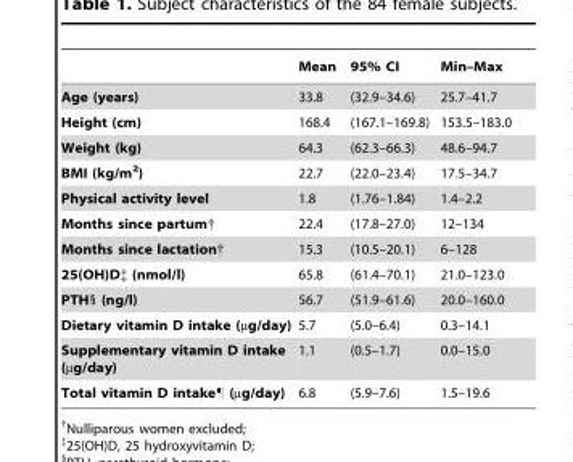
<table><thead><tr><td></td><td>Mean</td><td>95% CI</td><td>Min–Max</td></tr></thead><tbody><tr><td>Age (years)</td><td>33.8</td><td>(32.9–34.6)</td><td>25.7–41.7</td></tr><tr><td>Height (cm)</td><td>168.4</td><td>(167.1–169.8)</td><td>153.5–183.0</td></tr><tr><td>Weight (kg)</td><td>64.3</td><td>(62.3–66.3)</td><td>48.6–94.7</td></tr><tr><td>BMI (kg/m<sup>2</sup>)</td><td>22.7</td><td>(22.0–23.4)</td><td>17.5–34.7</td></tr><tr><td>Physical activity level</td><td>1.8</td><td>(1.76–1.84)</td><td>1.4–2.2</td></tr><tr><td>Months since partum†</td><td>22.4</td><td>(17.8–27.0)</td><td>12–134</td></tr><tr><td>Months since lactation†</td><td>15.3</td><td>(10.5–20.1)</td><td>6–128</td></tr><tr><td>25(OH)D‡ (nmol/l)</td><td>65.8</td><td>(61.4–70.1)</td><td>21.0–123.0</td></tr><tr><td>PTH§ (ng/l)</td><td>56.7</td><td>(51.9–61.6)</td><td>20.0–160.0</td></tr><tr><td>Dietary vitamin D intake (µg/day)</td><td>5.7</td><td>(5.0–6.4)</td><td>0.3–14.1</td></tr><tr><td>Supplementary vitamin D intake (µg/day)</td><td>1.1</td><td>(0.5–1.7)</td><td>0.0–15.0</td></tr><tr><td>Total vitamin D intake¶ (µg/day)</td><td>6.8</td><td>(5.9–7.6)</td><td>1.5–19.6</td></tr></tbody></table>